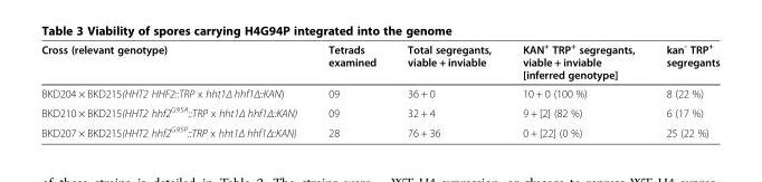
<table><thead><tr><td>Cross (relevant genotype)</td><td>Tetrads examined</td><td>Total segregants, viable + inviable</td><td>KAN<sup>+</sup> TRP<sup>+</sup> segregants, viable + inviable [inferred genotype]</td><td>kan<sup>-</sup> TRP<sup>+</sup> segregants</td></tr></thead><tbody><tr><td>BKD204 × BKD215(HHT2 HHF2::TRP x hht1Δ hhf1Δ::KAN)</td><td>09</td><td>36 + 0</td><td>10 + 0 (100 %)</td><td>8 (22 %)</td></tr><tr><td>BKD210 × BKD215(HHT2 hhf2G95A::TRP x hht1Δ hhf1Δ::KAN)</td><td>09</td><td>32 + 4</td><td>9 + [2] (82 %)</td><td>6 (17 %)</td></tr><tr><td>BKD207 × BKD215(HHT2 hhf2G95P::TRP x hht1Δ hhf1Δ::KAN)</td><td>28</td><td>76 + 36</td><td>0 + [22] (0 %)</td><td>25 (22 %)</td></tr></tbody></table>